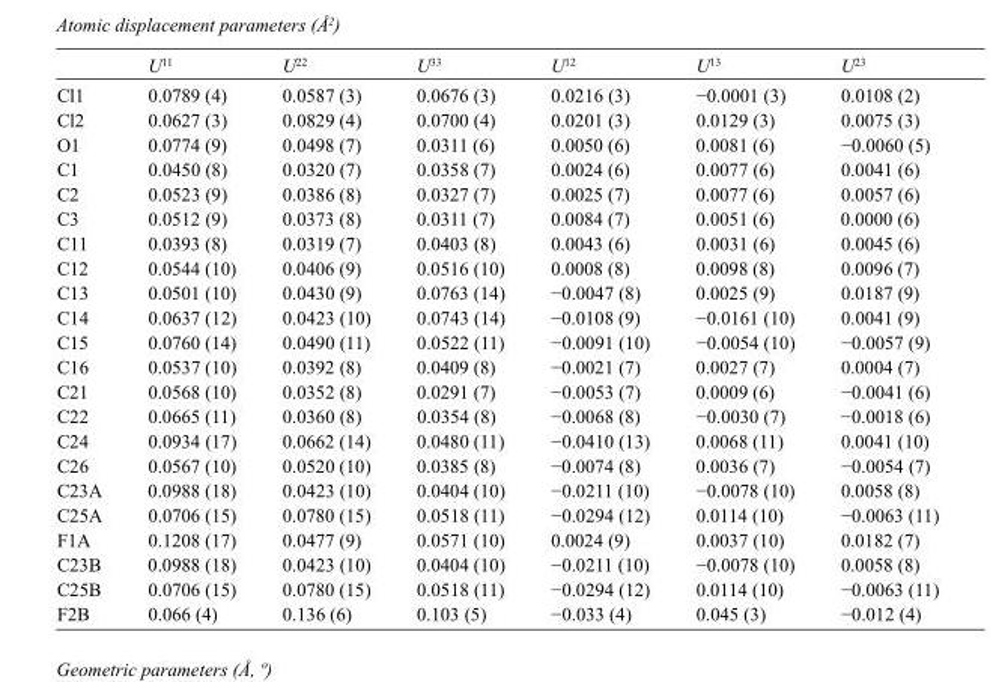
<table><thead><tr><td></td><td>U<sup>11</sup></td><td>U<sup>22</sup></td><td>U<sup>33</sup></td><td>U<sup>12</sup></td><td>U<sup>13</sup></td><td>U<sup>23</sup></td></tr></thead><tbody><tr><td>Cl1</td><td>0.0789 (4)</td><td>0.0587 (3)</td><td>0.0676 (3)</td><td>0.0216 (3)</td><td>−0.0001 (3)</td><td>0.0108 (2)</td></tr><tr><td>Cl2</td><td>0.0627 (3)</td><td>0.0829 (4)</td><td>0.0700 (4)</td><td>0.0201 (3)</td><td>0.0129 (3)</td><td>0.0075 (3)</td></tr><tr><td>O1</td><td>0.0774 (9)</td><td>0.0498 (7)</td><td>0.0311 (6)</td><td>0.0050 (6)</td><td>0.0081 (6)</td><td>−0.0060 (5)</td></tr><tr><td>C1</td><td>0.0450 (8)</td><td>0.0320 (7)</td><td>0.0358 (7)</td><td>0.0024 (6)</td><td>0.0077 (6)</td><td>0.0041 (6)</td></tr><tr><td>C2</td><td>0.0523 (9)</td><td>0.0386 (8)</td><td>0.0327 (7)</td><td>0.0025 (7)</td><td>0.0077 (6)</td><td>0.0057 (6)</td></tr><tr><td>C3</td><td>0.0512 (9)</td><td>0.0373 (8)</td><td>0.0311 (7)</td><td>0.0084 (7)</td><td>0.0051 (6)</td><td>0.0000 (6)</td></tr><tr><td>C11</td><td>0.0393 (8)</td><td>0.0319 (7)</td><td>0.0403 (8)</td><td>0.0043 (6)</td><td>0.0031 (6)</td><td>0.0045 (6)</td></tr><tr><td>C12</td><td>0.0544 (10)</td><td>0.0406 (9)</td><td>0.0516 (10)</td><td>0.0008 (8)</td><td>0.0098 (8)</td><td>0.0096 (7)</td></tr><tr><td>C13</td><td>0.0501 (10)</td><td>0.0430 (9)</td><td>0.0763 (14)</td><td>−0.0047 (8)</td><td>0.0025 (9)</td><td>0.0187 (9)</td></tr><tr><td>C14</td><td>0.0637 (12)</td><td>0.0423 (10)</td><td>0.0743 (14)</td><td>−0.0108 (9)</td><td>−0.0161 (10)</td><td>0.0041 (9)</td></tr><tr><td>C15</td><td>0.0760 (14)</td><td>0.0490 (11)</td><td>0.0522 (11)</td><td>−0.0091 (10)</td><td>−0.0054 (10)</td><td>−0.0057 (9)</td></tr><tr><td>C16</td><td>0.0537 (10)</td><td>0.0392 (8)</td><td>0.0409 (8)</td><td>−0.0021 (7)</td><td>0.0027 (7)</td><td>0.0004 (7)</td></tr><tr><td>C21</td><td>0.0568 (10)</td><td>0.0352 (8)</td><td>0.0291 (7)</td><td>−0.0053 (7)</td><td>0.0009 (6)</td><td>−0.0041 (6)</td></tr><tr><td>C22</td><td>0.0665 (11)</td><td>0.0360 (8)</td><td>0.0354 (8)</td><td>−0.0068 (8)</td><td>−0.0030 (7)</td><td>−0.0018 (6)</td></tr><tr><td>C24</td><td>0.0934 (17)</td><td>0.0662 (14)</td><td>0.0480 (11)</td><td>−0.0410 (13)</td><td>0.0068 (11)</td><td>0.0041 (10)</td></tr><tr><td>C26</td><td>0.0567 (10)</td><td>0.0520 (10)</td><td>0.0385 (8)</td><td>−0.0074 (8)</td><td>0.0036 (7)</td><td>−0.0054 (7)</td></tr><tr><td>C23A</td><td>0.0988 (18)</td><td>0.0423 (10)</td><td>0.0404 (10)</td><td>−0.0211 (10)</td><td>−0.0078 (10)</td><td>0.0058 (8)</td></tr><tr><td>C25A</td><td>0.0706 (15)</td><td>0.0780 (15)</td><td>0.0518 (11)</td><td>−0.0294 (12)</td><td>0.0114 (10)</td><td>−0.0063 (11)</td></tr><tr><td>F1A</td><td>0.1208 (17)</td><td>0.0477 (9)</td><td>0.0571 (10)</td><td>0.0024 (9)</td><td>0.0037 (10)</td><td>0.0182 (7)</td></tr><tr><td>C23B</td><td>0.0988 (18)</td><td>0.0423 (10)</td><td>0.0404 (10)</td><td>−0.0211 (10)</td><td>−0.0078 (10)</td><td>0.0058 (8)</td></tr><tr><td>C25B</td><td>0.0706 (15)</td><td>0.0780 (15)</td><td>0.0518 (11)</td><td>−0.0294 (12)</td><td>0.0114 (10)</td><td>−0.0063 (11)</td></tr><tr><td>F2B</td><td>0.066 (4)</td><td>0.136 (6)</td><td>0.103 (5)</td><td>−0.033 (4)</td><td>0.045 (3)</td><td>−0.012 (4)</td></tr></tbody></table>